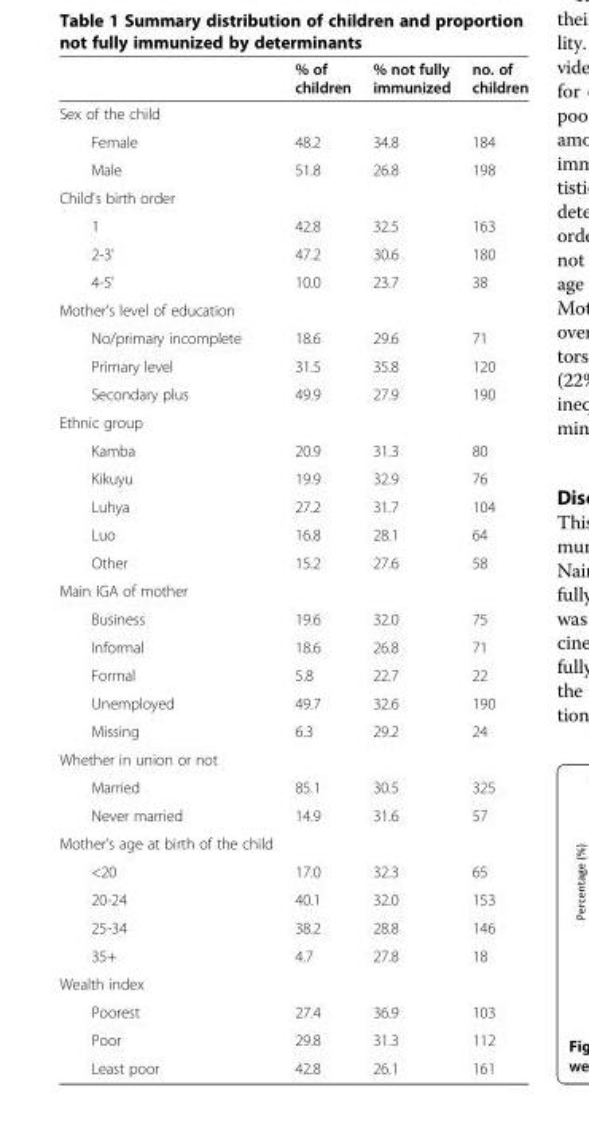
<table><thead><tr><td></td><td>% of children</td><td>% not fully immunized</td><td>no. of children</td></tr></thead><tbody><tr><td colspan="4">Sex of the child</td></tr><tr><td>Female</td><td>48.2</td><td>34.8</td><td>184</td></tr><tr><td>Male</td><td>51.8</td><td>26.8</td><td>198</td></tr><tr><td colspan="4">Child&#x27;s birth order</td></tr><tr><td>1</td><td>42.8</td><td>32.5</td><td>163</td></tr><tr><td>2-3&#x27;</td><td>47.2</td><td>30.6</td><td>180</td></tr><tr><td>4-5&#x27;</td><td>10.0</td><td>23.7</td><td>38</td></tr><tr><td colspan="4">Mother&#x27;s level of education</td></tr><tr><td>No/primary incomplete</td><td>18.6</td><td>29.6</td><td>71</td></tr><tr><td>Primary level</td><td>31.5</td><td>35.8</td><td>120</td></tr><tr><td>Secondary plus</td><td>49.9</td><td>27.9</td><td>190</td></tr><tr><td colspan="4">Ethnic group</td></tr><tr><td>Kamba</td><td>20.9</td><td>31.3</td><td>80</td></tr><tr><td>Kikuyu</td><td>19.9</td><td>32.9</td><td>76</td></tr><tr><td>Luhya</td><td>27.2</td><td>31.7</td><td>104</td></tr><tr><td>Luo</td><td>16.8</td><td>28.1</td><td>64</td></tr><tr><td>Other</td><td>15.2</td><td>27.6</td><td>58</td></tr><tr><td colspan="4">Main IGA of mother</td></tr><tr><td>Business</td><td>19.6</td><td>32.0</td><td>75</td></tr><tr><td>Informal</td><td>18.6</td><td>26.8</td><td>71</td></tr><tr><td>Formal</td><td>5.8</td><td>22.7</td><td>22</td></tr><tr><td>Unemployed</td><td>49.7</td><td>32.6</td><td>190</td></tr><tr><td>Missing</td><td>6.3</td><td>29.2</td><td>24</td></tr><tr><td colspan="4">Whether in union or not</td></tr><tr><td>Married</td><td>85.1</td><td>30.5</td><td>325</td></tr><tr><td>Never married</td><td>14.9</td><td>31.6</td><td>57</td></tr><tr><td colspan="4">Mother’s age at birth of the child</td></tr><tr><td>&lt;20</td><td>17.0</td><td>32.3</td><td>65</td></tr><tr><td>20-24</td><td>40.1</td><td>32.0</td><td>153</td></tr><tr><td>25-34</td><td>38.2</td><td>28.8</td><td>146</td></tr><tr><td>35+</td><td>4.7</td><td>27.8</td><td>18</td></tr><tr><td colspan="4">Wealth index</td></tr><tr><td>Poorest</td><td>27.4</td><td>36.9</td><td>103</td></tr><tr><td>Poor</td><td>29.8</td><td>31.3</td><td>112</td></tr><tr><td>Least poor</td><td>42.8</td><td>26.1</td><td>161</td></tr></tbody></table>